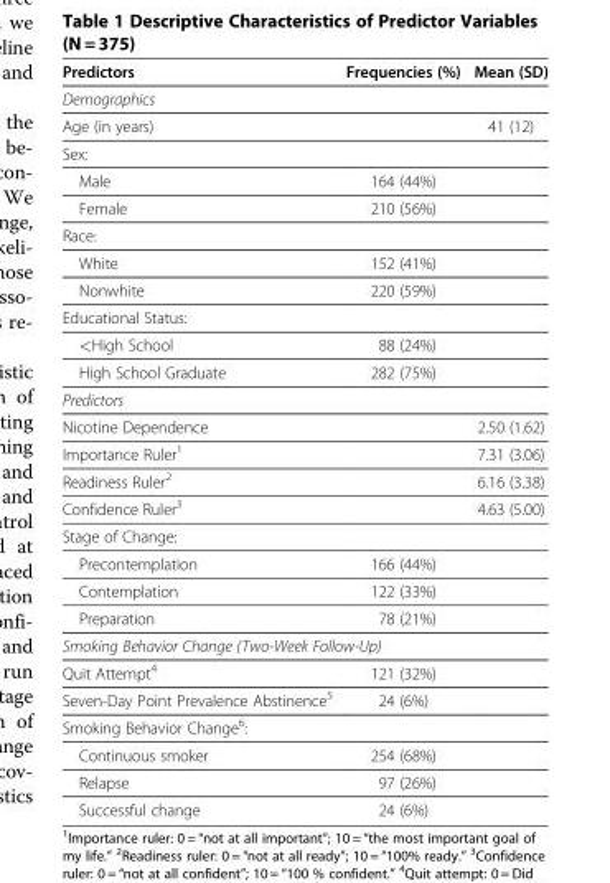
<table><thead><tr><td>Predictors</td><td>Frequencies (%)</td><td>Mean (SD)</td></tr></thead><tbody><tr><td colspan="3">Demographics</td></tr><tr><td>Age (in years)</td><td></td><td>41 (12)</td></tr><tr><td colspan="3">Sex:</td></tr><tr><td>Male</td><td>164 (44%)</td><td></td></tr><tr><td>Female</td><td>210 (56%)</td><td></td></tr><tr><td colspan="3">Race:</td></tr><tr><td>White</td><td>152 (41%)</td><td></td></tr><tr><td>Nonwhite</td><td>220 (59%)</td><td></td></tr><tr><td colspan="3">Educational Status:</td></tr><tr><td>&lt;High School</td><td>88 (24%)</td><td></td></tr><tr><td>High School Graduate</td><td>282 (75%)</td><td></td></tr><tr><td colspan="3">Predictors</td></tr><tr><td>Nicotine Dependence</td><td></td><td>2.50 (1.62)</td></tr><tr><td>Importance Ruler<sup>1</sup></td><td></td><td>7.31 (3.06)</td></tr><tr><td>Readiness Ruler<sup>2</sup></td><td></td><td>6.16 (3.38)</td></tr><tr><td>Confidence Ruler<sup>3</sup></td><td></td><td>4.63 (5.00)</td></tr><tr><td colspan="3">Stage of Change:</td></tr><tr><td>Precontemplation</td><td>166 (44%)</td><td></td></tr><tr><td>Contemplation</td><td>122 (33%)</td><td></td></tr><tr><td>Preparation</td><td>78 (21%)</td><td></td></tr><tr><td colspan="3">Smoking Behavior Change (Two-Week Follow-Up)</td></tr><tr><td>Quit Attempt<sup>4</sup></td><td>121 (32%)</td><td></td></tr><tr><td>Seven-Day Point Prevalence Abstinence<sup>5</sup></td><td>24 (6%)</td><td></td></tr><tr><td colspan="3">Smoking Behavior Change<sup>6</sup>:</td></tr><tr><td>Continuous smoker</td><td>254 (68%)</td><td></td></tr><tr><td>Relapse</td><td>97 (26%)</td><td></td></tr><tr><td>Successful change</td><td>24 (6%)</td><td></td></tr></tbody></table>